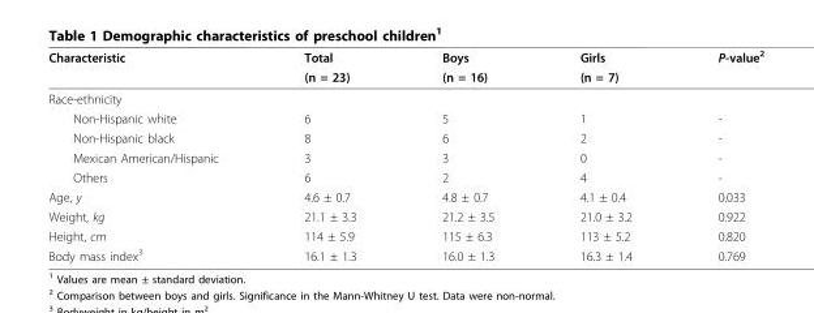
<table><thead><tr><td rowspan="2">Characteristic</td><td rowspan="2">Total (n = 23)</td><td rowspan="2">Boys (n = 16)</td><td rowspan="2">Girls (n = 7)</td><td rowspan="2">P-value<sup>2</sup></td></tr><tr></tr></thead><tbody><tr><td colspan="5">Race-ethnicity</td></tr><tr><td>Non-Hispanic white</td><td>6</td><td>5</td><td>1</td><td>-</td></tr><tr><td>Non-Hispanic black</td><td>8</td><td>6</td><td>2</td><td>-</td></tr><tr><td>Mexican American/Hispanic</td><td>3</td><td>3</td><td>0</td><td>-</td></tr><tr><td>Others</td><td>6</td><td>2</td><td>4</td><td>-</td></tr><tr><td>Age, y</td><td>4.6 ± 0.7</td><td>4.8 ± 0.7</td><td>4.1 ± 0.4</td><td>0.033</td></tr><tr><td>Weight, kg</td><td>21.1 ± 3.3</td><td>21.2 ± 3.5</td><td>21.0 ± 3.2</td><td>0.922</td></tr><tr><td>Height, cm</td><td>114 ± 5.9</td><td>115 ± 6.3</td><td>113 ± 5.2</td><td>0.820</td></tr><tr><td>Body mass index<sup>3</sup></td><td>16.1 ± 1.3</td><td>16.0 ± 1.3</td><td>16.3 ± 1.4</td><td>0.769</td></tr></tbody></table>